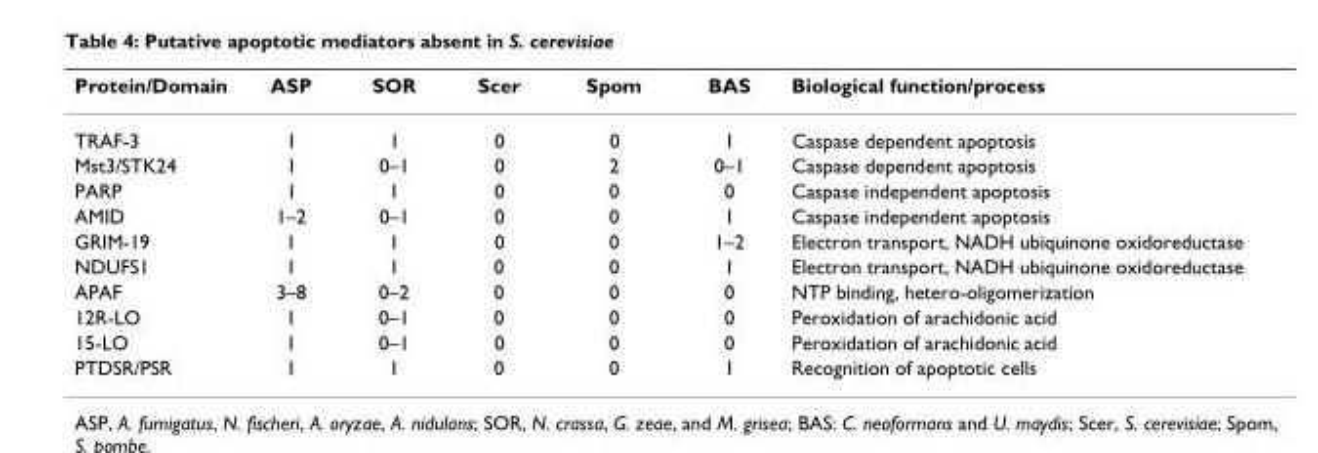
<table><thead><tr><td>Protein/Domain</td><td>ASP</td><td>SOR</td><td>Scer</td><td>Spom</td><td>BAS</td><td>Biological function/process</td></tr></thead><tbody><tr><td>TRAF-3</td><td>1</td><td>1</td><td>0</td><td>0</td><td>1</td><td>Caspase dependent apoptosis</td></tr><tr><td>Mst3/STK24</td><td>1</td><td>0–1</td><td>0</td><td>2</td><td>0–1</td><td>Caspase dependent apoptosis</td></tr><tr><td>PARP</td><td>1</td><td>1</td><td>0</td><td>0</td><td>0</td><td>Caspase independent apoptosis</td></tr><tr><td>AMID</td><td>1–2</td><td>0–1</td><td>0</td><td>0</td><td>1</td><td>Caspase independent apoptosis</td></tr><tr><td>GRIM-19</td><td>1</td><td>1</td><td>0</td><td>0</td><td>1–2</td><td>Electron transport, NADH ubiquinone oxidoreductase</td></tr><tr><td>NDUFS1</td><td>1</td><td>1</td><td>0</td><td>0</td><td>1</td><td>Electron transport, NADH ubiquinone oxidoreductase</td></tr><tr><td>APAF</td><td>3–8</td><td>0–2</td><td>0</td><td>0</td><td>0</td><td>NTP binding, hetero-oligomerization</td></tr><tr><td>12R-LO</td><td>1</td><td>0–1</td><td>0</td><td>0</td><td>0</td><td>Peroxidation of arachidonic acid</td></tr><tr><td>15-LO</td><td>1</td><td>0–1</td><td>0</td><td>0</td><td>0</td><td>Peroxidation of arachidonic acid</td></tr><tr><td>PTDSR/PSR</td><td>1</td><td>1</td><td>0</td><td>0</td><td>1</td><td>Recognition of apoptotic cells</td></tr></tbody></table>